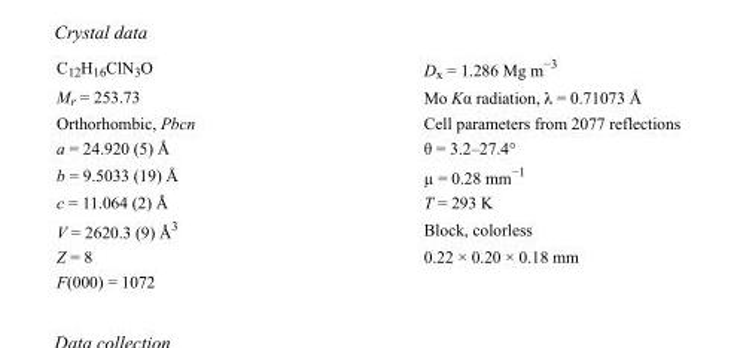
<table><tbody><tr><td>C<sub>12</sub>H<sub>16</sub>ClN<sub>3</sub>O</td><td>D<sub>x</sub> = 1.286 Mg m<sup>−3</sup></td></tr><tr><td>M<sub>r</sub> = 253.73</td><td>Mo Kα radiation, λ = 0.71073 Å</td></tr><tr><td>Orthorhombic, Pbcn</td><td>Cell parameters from 2077 reflections</td></tr><tr><td>a = 24.920 (5) Å</td><td>θ = 3.2–27.4°</td></tr><tr><td>b = 9.5033 (19) Å</td><td>µ = 0.28 mm<sup>−1</sup></td></tr><tr><td>c = 11.064 (2) Å</td><td>T = 293 K</td></tr><tr><td>V = 2620.3 (9) Å<sup>3</sup></td><td>Block, colorless</td></tr><tr><td>Z = 8</td><td>0.22 × 0.20 × 0.18 mm</td></tr><tr><td>F(000) = 1072</td><td></td></tr></tbody></table>